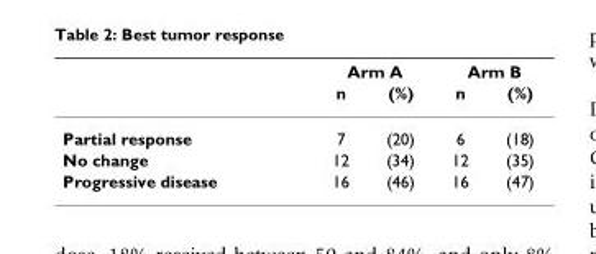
<table><thead><tr><td rowspan="2"></td><td colspan="2">Arm A</td><td colspan="2">Arm B</td></tr><tr><td>n</td><td>(%)</td><td>n</td><td>(%)</td></tr></thead><tbody><tr><td>Partial response</td><td>7</td><td>(20)</td><td>6</td><td>(18)</td></tr><tr><td>No change</td><td>12</td><td>(34)</td><td>12</td><td>(35)</td></tr><tr><td>Progressive disease</td><td>16</td><td>(46)</td><td>16</td><td>(47)</td></tr></tbody></table>